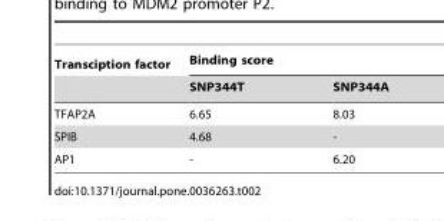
<table><thead><tr><td rowspan="2">Transciption factor</td><td colspan="2">Binding score</td></tr><tr><td>SNP344T</td><td>SNP344A</td></tr></thead><tbody><tr><td>TFAP2A</td><td>6.65</td><td>8.03</td></tr><tr><td>SPIB</td><td>4.68</td><td>-</td></tr><tr><td>AP1</td><td>-</td><td>6.20</td></tr></tbody></table>